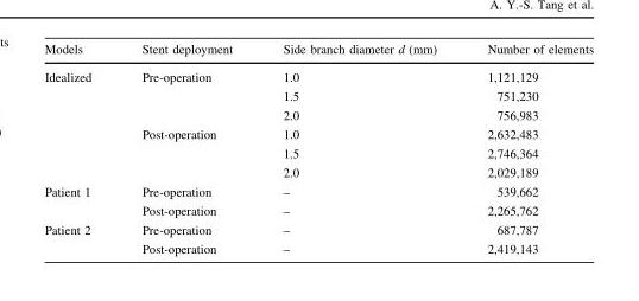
<table><thead><tr><td>Models</td><td>Stent deployment</td><td>Side branch diameter d (mm)</td><td>Number of elements</td></tr></thead><tbody><tr><td rowspan="6">Idealized</td><td rowspan="3">Pre-operation</td><td>1.0</td><td>1,121,129</td></tr><tr><td>1.5</td><td>751,230</td></tr><tr><td>2.0</td><td>756,983</td></tr><tr><td rowspan="3">Post-operation</td><td>1.0</td><td>2,632,483</td></tr><tr><td>1.5</td><td>2,746,364</td></tr><tr><td>2.0</td><td>2,029,189</td></tr><tr><td rowspan="2">Patient 1</td><td>Pre-operation</td><td>–</td><td>539,662</td></tr><tr><td>Post-operation</td><td>–</td><td>2,265,762</td></tr><tr><td rowspan="2">Patient 2</td><td>Pre-operation</td><td>–</td><td>687,787</td></tr><tr><td>Post-operation</td><td>–</td><td>2,419,143</td></tr></tbody></table>